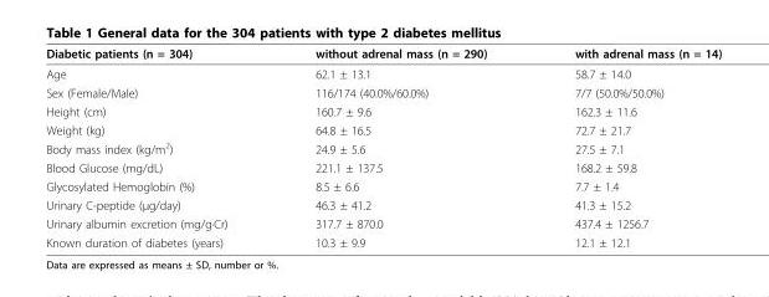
<table><thead><tr><td>Diabetic patients (n = 304)</td><td>without adrenal mass (n = 290)</td><td>with adrenal mass (n = 14)</td></tr></thead><tbody><tr><td>Age</td><td>62.1 ± 13.1</td><td>58.7 ± 14.0</td></tr><tr><td>Sex (Female/Male)</td><td>116/174 (40.0%/60.0%)</td><td>7/7 (50.0%/50.0%)</td></tr><tr><td>Height (cm)</td><td>160.7 ± 9.6</td><td>162.3 ± 11.6</td></tr><tr><td>Weight (kg)</td><td>64.8 ± 16.5</td><td>72.7 ± 21.7</td></tr><tr><td>Body mass index (kg/m<sup>2</sup>)</td><td>24.9 ± 5.6</td><td>27.5 ± 7.1</td></tr><tr><td>Blood Glucose (mg/dL)</td><td>221.1 ± 137.5</td><td>168.2 ± 59.8</td></tr><tr><td>Glycosylated Hemoglobin (%)</td><td>8.5 ± 6.6</td><td>7.7 ± 1.4</td></tr><tr><td>Urinary C-peptide (μg/day)</td><td>46.3 ± 41.2</td><td>41.3 ± 15.2</td></tr><tr><td>Urinary albumin excretion (mg/g·Cr)</td><td>317.7 ± 870.0</td><td>437.4 ± 1256.7</td></tr><tr><td>Known duration of diabetes (years)</td><td>10.3 ± 9.9</td><td>12.1 ± 12.1</td></tr></tbody></table>